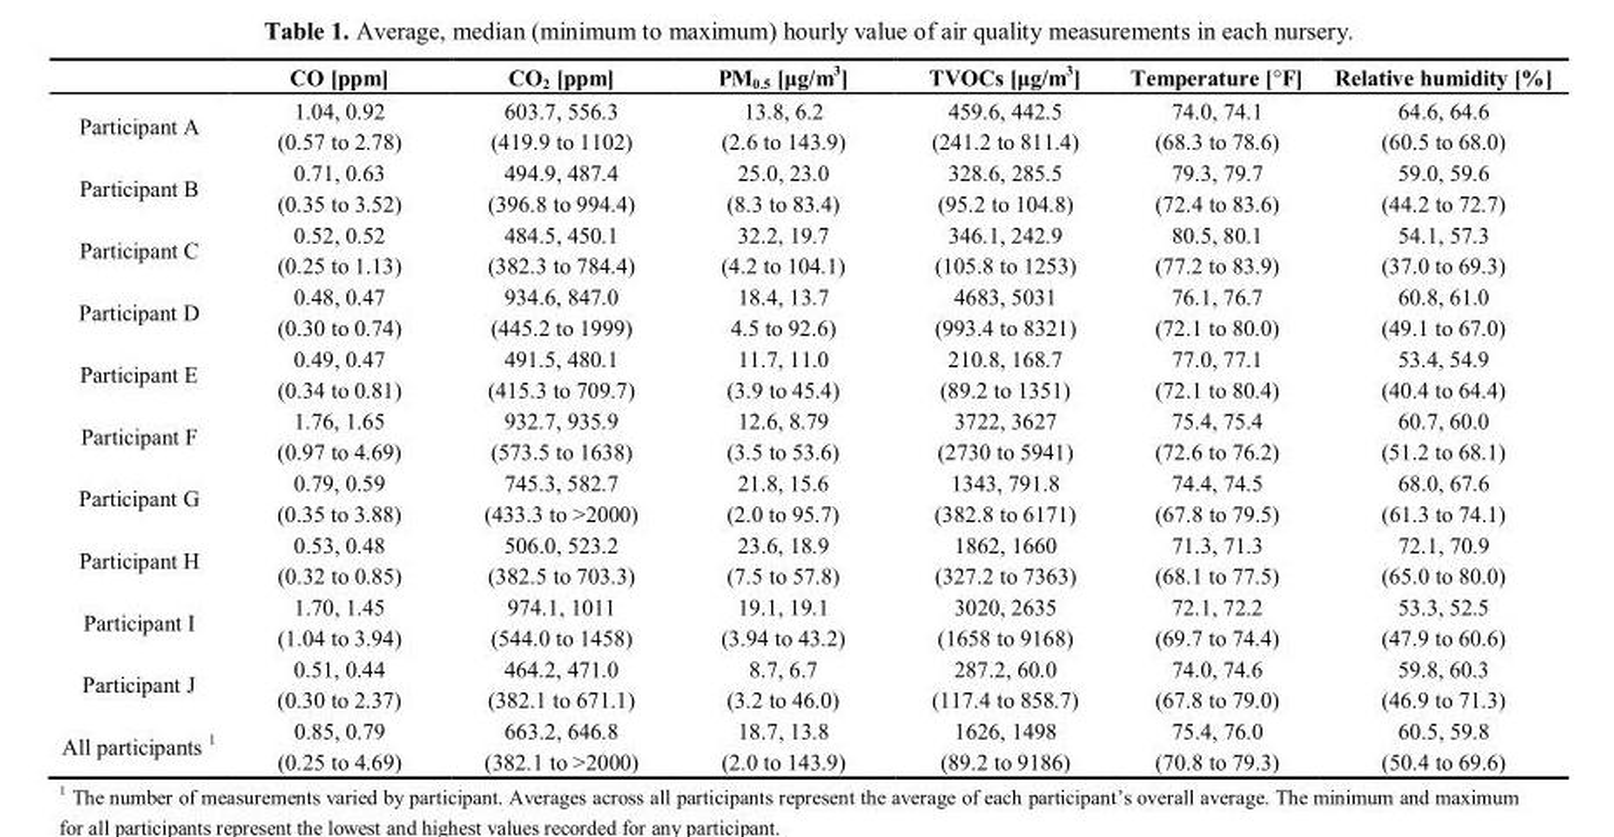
<table><thead><tr><td></td><td>CO [ppm]</td><td>CO<sub>2</sub> [ppm]</td><td>PM<sub>0.5</sub> [μg/m<sup>3</sup>]</td><td>TVOCs [μg/m<sup>3</sup>]</td><td>Temperature [°F]</td><td>Relative humidity [%]</td></tr></thead><tbody><tr><td rowspan="2">Participant A</td><td>1.04, 0.92</td><td>603.7, 556.3</td><td>13.8, 6.2</td><td>459.6, 442.5</td><td>74.0, 74.1</td><td>64.6, 64.6</td></tr><tr><td>(0.57 to 2.78)</td><td>(419.9 to 1102)</td><td>(2.6 to 143.9)</td><td>(241.2 to 811.4)</td><td>(68.3 to 78.6)</td><td>(60.5 to 68.0)</td></tr><tr><td rowspan="2">Participant B</td><td>0.71, 0.63</td><td>494.9, 487.4</td><td>25.0, 23.0</td><td>328.6, 285.5</td><td>79.3, 79.7</td><td>59.0, 59.6</td></tr><tr><td>(0.35 to 3.52)</td><td>(396.8 to 994.4)</td><td>(8.3 to 83.4)</td><td>(95.2 to 104.8)</td><td>(72.4 to 83.6)</td><td>(44.2 to 72.7)</td></tr><tr><td rowspan="2">Participant C</td><td>0.52, 0.52</td><td>484.5, 450.1</td><td>32.2, 19.7</td><td>346.1, 242.9</td><td>80.5, 80.1</td><td>54.1, 57.3</td></tr><tr><td>(0.25 to 1.13)</td><td>(382.3 to 784.4)</td><td>(4.2 to 104.1)</td><td>(105.8 to 1253)</td><td>(77.2 to 83.9)</td><td>(37.0 to 69.3)</td></tr><tr><td rowspan="2">Participant D</td><td>0.48, 0.47</td><td>934.6, 847.0</td><td>18.4, 13.7</td><td>4683, 5031</td><td>76.1, 76.7</td><td>60.8, 61.0</td></tr><tr><td>(0.30 to 0.74)</td><td>(445.2 to 1999)</td><td>4.5 to 92.6)</td><td>(993.4 to 8321)</td><td>(72.1 to 80.0)</td><td>(49.1 to 67.0)</td></tr><tr><td rowspan="2">Participant E</td><td>0.49, 0.47</td><td>491.5, 480.1</td><td>11.7, 11.0</td><td>210.8, 168.7</td><td>77.0, 77.1</td><td>53.4, 54.9</td></tr><tr><td>(0.34 to 0.81)</td><td>(415.3 to 709.7)</td><td>(3.9 to 45.4)</td><td>(89.2 to 1351)</td><td>(72.1 to 80.4)</td><td>(40.4 to 64.4)</td></tr><tr><td rowspan="2">Participant F</td><td>1.76, 1.65</td><td>932.7, 935.9</td><td>12.6, 8.79</td><td>3722, 3627</td><td>75.4, 75.4</td><td>60.7, 60.0</td></tr><tr><td>(0.97 to 4.69)</td><td>(573.5 to 1638)</td><td>(3.5 to 53.6)</td><td>(2730 to 5941)</td><td>(72.6 to 76.2)</td><td>(51.2 to 68.1)</td></tr><tr><td rowspan="2">Participant G</td><td>0.79, 0.59</td><td>745.3, 582.7</td><td>21.8, 15.6</td><td>1343, 791.8</td><td>74.4, 74.5</td><td>68.0, 67.6</td></tr><tr><td>(0.35 to 3.88)</td><td>(433.3 to &gt;2000)</td><td>(2.0 to 95.7)</td><td>(382.8 to 6171)</td><td>(67.8 to 79.5)</td><td>(61.3 to 74.1)</td></tr><tr><td rowspan="2">Participant H</td><td>0.53, 0.48</td><td>506.0, 523.2</td><td>23.6, 18.9</td><td>1862, 1660</td><td>71.3, 71.3</td><td>72.1, 70.9</td></tr><tr><td>(0.32 to 0.85)</td><td>(382.5 to 703.3)</td><td>(7.5 to 57.8)</td><td>(327.2 to 7363)</td><td>(68.1 to 77.5)</td><td>(65.0 to 80.0)</td></tr><tr><td rowspan="2">Participant I</td><td>1.70, 1.45</td><td>974.1, 1011</td><td>19.1, 19.1</td><td>3020, 2635</td><td>72.1, 72.2</td><td>53.3, 52.5</td></tr><tr><td>(1.04 to 3.94)</td><td>(544.0 to 1458)</td><td>(3.94 to 43.2)</td><td>(1658 to 9168)</td><td>(69.7 to 74.4)</td><td>(47.9 to 60.6)</td></tr><tr><td rowspan="2">Participant J</td><td>0.51, 0.44</td><td>464.2, 471.0</td><td>8.7, 6.7</td><td>287.2, 60.0</td><td>74.0, 74.6</td><td>59.8, 60.3</td></tr><tr><td>(0.30 to 2.37)</td><td>(382.1 to 671.1)</td><td>(3.2 to 46.0)</td><td>(117.4 to 858.7)</td><td>(67.8 to 79.0)</td><td>(46.9 to 71.3)</td></tr><tr><td rowspan="2">All participants <sup>1</sup></td><td>0.85, 0.79</td><td>663.2, 646.8</td><td>18.7, 13.8</td><td>1626, 1498</td><td>75.4, 76.0</td><td>60.5, 59.8</td></tr><tr><td>(0.25 to 4.69)</td><td>(382.1 to &gt;2000)</td><td>(2.0 to 143.9)</td><td>(89.2 to 9186)</td><td>(70.8 to 79.3)</td><td>(50.4 to 69.6)</td></tr></tbody></table>